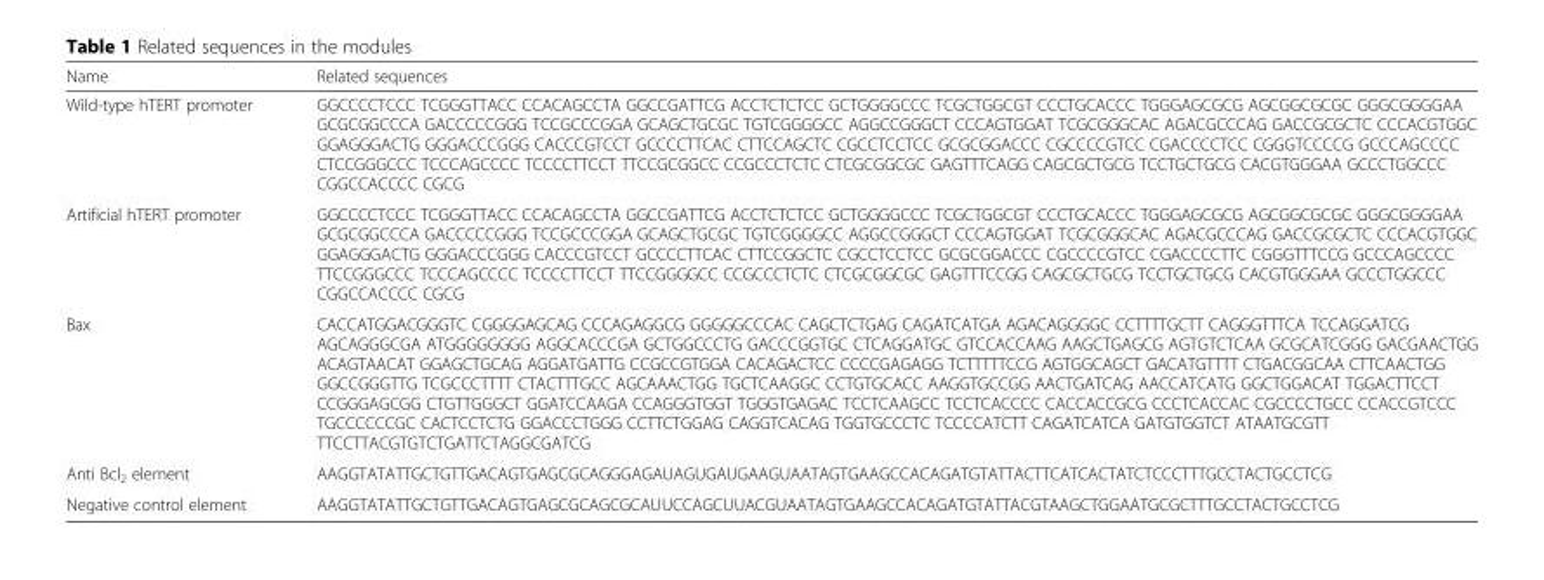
<table><thead><tr><td>Name</td><td>Related sequences</td></tr></thead><tbody><tr><td>Wild-type hTERT promoter</td><td>GGCCCCTCCC TCGGGTTACC CCACAGCCTA GGCCGATTCG ACCTCTCTCC GCTGGGGCCC TCGCTGGCGT CCCTGCACCC TGGGAGCGCG AGCGGCGCGC GGGCGGGGAA GCGCGGCCCA GACCCCCGGG TCCGCCCGGA GCAGCTGCGC TGTCGGGGCC AGGCCGGGCT CCCAGTGGAT TCGCGGGCAC AGACGCCCAG GACCGCGCTC CCCACGTGGC GGAGGGACTG GGGACCCGGG CACCCGTCCT GCCCCTTCAC CTTCCAGCTC CGCCTCCTCC GCGCGGACCC CGCCCCGTCC CGACCCCTCC CGGGTCCCCG GCCCAGCCCC CTCCGGGCCC TCCCAGCCCC TCCCCTTCCT TTCCGCGGCC CCGCCCTCTC CTCGCGGCGC GAGTTTCAGG CAGCGCTGCG TCCTGCTGCG CACGTGGGAA GCCCTGGCCC CGGCCACCCC CGCG</td></tr><tr><td>Artificial hTERT promoter</td><td>GGCCCCTCCC TCGGGTTACC CCACAGCCTA GGCCGATTCG ACCTCTCTCC GCTGGGGCCC TCGCTGGCGT CCCTGCACCC TGGGAGCGCG AGCGGCGCGC GGGCGGGGAA GCGCGGCCCA GACCCCCGGG TCCGCCCGGA GCAGCTGCGC TGTCGGGGCC AGGCCGGGCT CCCAGTGGAT TCGCGGGCAC AGACGCCCAG GACCGCGCTC CCCACGTGGC GGAGGGACTG GGGACCCGGG CACCCGTCCT GCCCCTTCAC CTTCCGGCTC CGCCTCCTCC GCGCGGACCC CGCCCCGTCC CGACCCCTTC CGGGTTTCCG GCCCAGCCCC TTCCGGGCCC TCCCAGCCCC TCCCCTTCCT TTCCGGGGCC CCGCCCTCTC CTCGCGGCGC GAGTTTCCGG CAGCGCTGCG TCCTGCTGCG CACGTGGGAA GCCCTGGCCC CGGCCACCCC CGCG</td></tr><tr><td>Bax</td><td>CACCATGGACGGGTC CGGGGAGCAG CCCAGAGGCG GGGGGCCCAC CAGCTCTGAG CAGATCATGA AGACAGGGGC CCTTTTGCTT CAGGGTTTCA TCCAGGATCG AGCAGGGCGA ATGGGGGGGG AGGCACCCGA GCTGGCCCTG GACCCGGTGC CTCAGGATGC GTCCACCAAG AAGCTGAGCG AGTGTCTCAA GCGCATCGGG GACGAACTGG ACAGTAACAT GGAGCTGCAG AGGATGATTG CCGCCGTGGA CACAGACTCC CCCCGAGAGG TCTTTTTCCG AGTGGCAGCT GACATGTTTT CTGACGGCAA CTTCAACTGG GGCCGGGTTG TCGCCCTTTT CTACTTTGCC AGCAAACTGG TGCTCAAGGC CCTGTGCACC AAGGTGCCGG AACTGATCAG AACCATCATG GGCTGGACAT TGGACTTCCT CCGGGAGCGG CTGTTGGGCT GGATCCAAGA CCAGGGTGGT TGGGTGAGAC TCCTCAAGCC TCCTCACCCC CACCACCGCG CCCTCACCAC CGCCCCTGCC CCACCGTCCC TGCCCCCCGC CACTCCTCTG GGACCCTGGG CCTTCTGGAG CAGGTCACAG TGGTGCCCTC TCCCCATCTT CAGATCATCA GATGTGGTCT ATAATGCGTT TTCCTTACGTGTCTGATTCTAGGCGATCG</td></tr><tr><td>Anti Bcl<sub>2</sub> element</td><td>AAGGTATATTGCTGTTGACAGTGAGCGCAGGGAGAUAGUGAUGAAGUAATAGTGAAGCCACAGATGTATTACTTCATCACTATCTCCCTTTGCCTACTGCCTCG</td></tr><tr><td>Negative control element</td><td>AAGGTATATTGCTGTTGACAGTGAGCGCAGCGCAUUCCAGCUUACGUAATAGTGAAGCCACAGATGTATTACGTAAGCTGGAATGCGCTTTGCCTACTGCCTCG</td></tr></tbody></table>